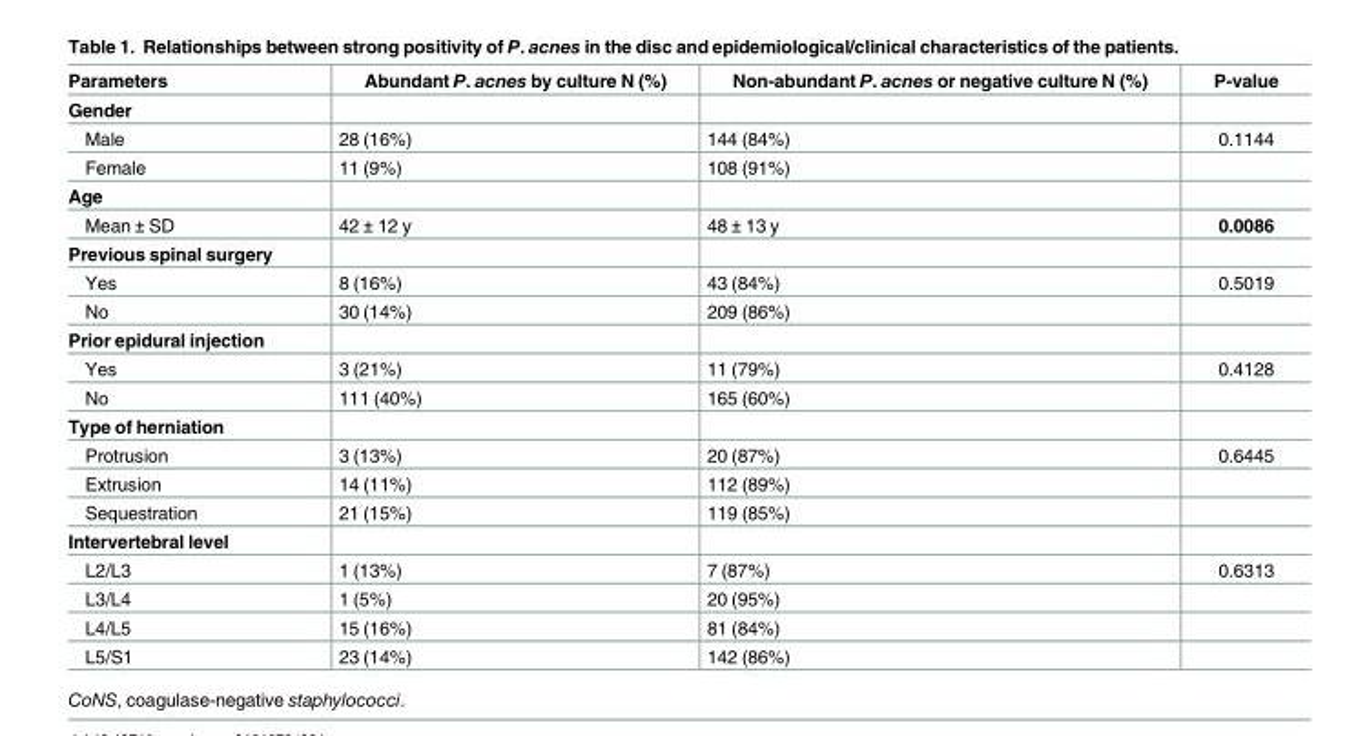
<table><thead><tr><td>Parameters</td><td>Abundant P. acnes by culture N (%)</td><td>Non-abundant P. acnes or negative culture N (%)</td><td>P-value</td></tr></thead><tbody><tr><td colspan="4">Gender</td></tr><tr><td>Male</td><td>28 (16%)</td><td>144 (84%)</td><td>0.1144</td></tr><tr><td>Female</td><td>11 (9%)</td><td>108 (91%)</td><td></td></tr><tr><td colspan="4">Age</td></tr><tr><td>Mean ± SD</td><td>42 ± 12 y</td><td>48 ± 13 y</td><td>0.0086</td></tr><tr><td colspan="4">Previous spinal surgery</td></tr><tr><td>Yes</td><td>8 (16%)</td><td>43 (84%)</td><td>0.5019</td></tr><tr><td>No</td><td>30 (14%)</td><td>209 (86%)</td><td></td></tr><tr><td colspan="4">Prior epidural injection</td></tr><tr><td>Yes</td><td>3 (21%)</td><td>11 (79%)</td><td>0.4128</td></tr><tr><td>No</td><td>111 (40%)</td><td>165 (60%)</td><td></td></tr><tr><td colspan="4">Type of herniation</td></tr><tr><td>Protrusion</td><td>3 (13%)</td><td>20 (87%)</td><td>0.6445</td></tr><tr><td>Extrusion</td><td>14 (11%)</td><td>112 (89%)</td><td></td></tr><tr><td>Sequestration</td><td>21 (15%)</td><td>119 (85%)</td><td></td></tr><tr><td colspan="4">Intervertebral level</td></tr><tr><td>L2/L3</td><td>1 (13%)</td><td>7 (87%)</td><td>0.6313</td></tr><tr><td>L3/L4</td><td>1 (5%)</td><td>20 (95%)</td><td></td></tr><tr><td>L4/L5</td><td>15 (16%)</td><td>81 (84%)</td><td></td></tr><tr><td>L5/S1</td><td>23 (14%)</td><td>142 (86%)</td><td></td></tr></tbody></table>